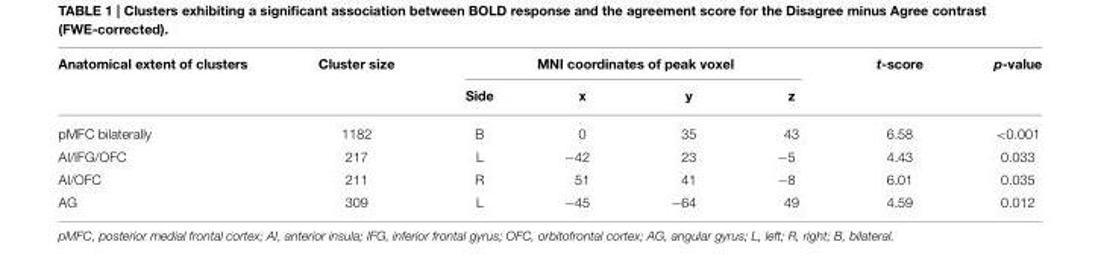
<table><thead><tr><td rowspan="2">Anatomical extent of clusters</td><td rowspan="2">Cluster size</td><td colspan="4">MNI coordinates of peak voxel</td><td rowspan="2">t-score</td><td rowspan="2">p-value</td></tr><tr><td>Side</td><td>x</td><td>y</td><td>z</td></tr></thead><tbody><tr><td>pMFC bilaterally</td><td>1182</td><td>B</td><td>0</td><td>35</td><td>43</td><td>6.58</td><td>&lt;0.001</td></tr><tr><td>AI/IFG/OFC</td><td>217</td><td>L</td><td>−42</td><td>23</td><td>−5</td><td>4.43</td><td>0.033</td></tr><tr><td>AI/OFC</td><td>211</td><td>R</td><td>51</td><td>41</td><td>−8</td><td>6.01</td><td>0.035</td></tr><tr><td>AG</td><td>309</td><td>L</td><td>−45</td><td>−64</td><td>49</td><td>4.59</td><td>0.012</td></tr></tbody></table>